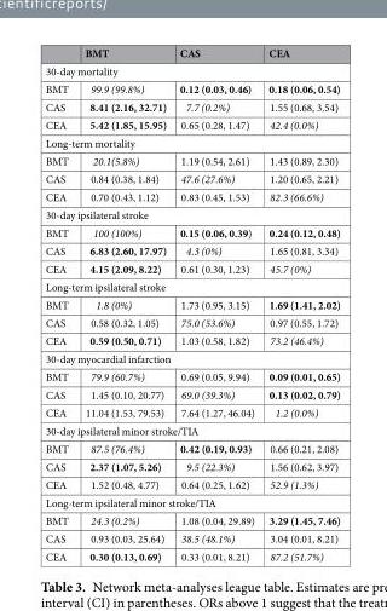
<table><thead><tr><td></td><td>BMT</td><td>CAS</td><td>CEA</td></tr></thead><tbody><tr><td colspan="4">30-day mortality</td></tr><tr><td>BMT</td><td>99.9 (99.8%)</td><td>0.12 (0.03, 0.46)</td><td>0.18 (0.06, 0.54)</td></tr><tr><td>CAS</td><td>8.41 (2.16, 32.71)</td><td>7.7 (0.2%)</td><td>1.55 (0.68, 3.54)</td></tr><tr><td>CEA</td><td>5.42 (1.85, 15.95)</td><td>0.65 (0.28, 1.47)</td><td>42.4 (0.0%)</td></tr><tr><td colspan="4">Long-term mortality</td></tr><tr><td>BMT</td><td>20.1(5.8%)</td><td>1.19 (0.54, 2.61)</td><td>1.43 (0.89, 2.30)</td></tr><tr><td>CAS</td><td>0.84 (0.38, 1.84)</td><td>47.6 (27.6%)</td><td>1.20 (0.65, 2.21)</td></tr><tr><td>CEA</td><td>0.70 (0.43, 1.12)</td><td>0.83 (0.45, 1.53)</td><td>82.3 (66.6%)</td></tr><tr><td colspan="4">30-day ipsilateral stroke</td></tr><tr><td>BMT</td><td>100 (100%)</td><td>0.15 (0.06, 0.39)</td><td>0.24 (0.12, 0.48)</td></tr><tr><td>CAS</td><td>6.83 (2.60, 17.97)</td><td>4.3 (0%)</td><td>1.65 (0.81, 3.34)</td></tr><tr><td>CEA</td><td>4.15 (2.09, 8.22)</td><td>0.61 (0.30, 1.23)</td><td>45.7 (0%)</td></tr><tr><td colspan="4">Long-term ipsilateral stroke</td></tr><tr><td>BMT</td><td>1.8 (0%)</td><td>1.73 (0.95, 3.15)</td><td>1.69 (1.41, 2.02)</td></tr><tr><td>CAS</td><td>0.58 (0.32, 1.05)</td><td>75.0 (53.6%)</td><td>0.97 (0.55, 1.72)</td></tr><tr><td>CEA</td><td>0.59 (0.50, 0.71)</td><td>1.03 (0.58, 1.82)</td><td>73.2 (46.4%)</td></tr><tr><td colspan="4">30-day myocardial infarction</td></tr><tr><td>BMT</td><td>79.9 (60.7%)</td><td>0.69 (0.05, 9.94)</td><td>0.09 (0.01, 0.65)</td></tr><tr><td>CAS</td><td>1.45 (0.10, 20.77)</td><td>69.0 (39.3%)</td><td>0.13 (0.02, 0.79)</td></tr><tr><td>CEA</td><td>11.04 (1.53, 79.53)</td><td>7.64 (1.27, 46.04)</td><td>1.2 (0.0%)</td></tr><tr><td colspan="4">30-day ipsilateral minor stroke/TIA</td></tr><tr><td>BMT</td><td>87.5 (76.4%)</td><td>0.42 (0.19, 0.93)</td><td>0.66 (0.21, 2.08)</td></tr><tr><td>CAS</td><td>2.37 (1.07, 5.26)</td><td>9.5 (22.3%)</td><td>1.56 (0.62, 3.97)</td></tr><tr><td>CEA</td><td>1.52 (0.48, 4.77)</td><td>0.64 (0.25, 1.62)</td><td>52.9 (1.3%)</td></tr><tr><td colspan="4">Long-term ipsilateral minor stroke/TIA</td></tr><tr><td>BMT</td><td>24.3 (0.2%)</td><td>1.08 (0.04, 29.89)</td><td>3.29 (1.45, 7.46)</td></tr><tr><td>CAS</td><td>0.93 (0.03, 25.64)</td><td>38.5 (48.1%)</td><td>3.04 (0.01, 8.21)</td></tr><tr><td>CEA</td><td>0.30 (0.13, 0.69)</td><td>0.33 (0.01, 8.21)</td><td>87.2 (51.7%)</td></tr></tbody></table>